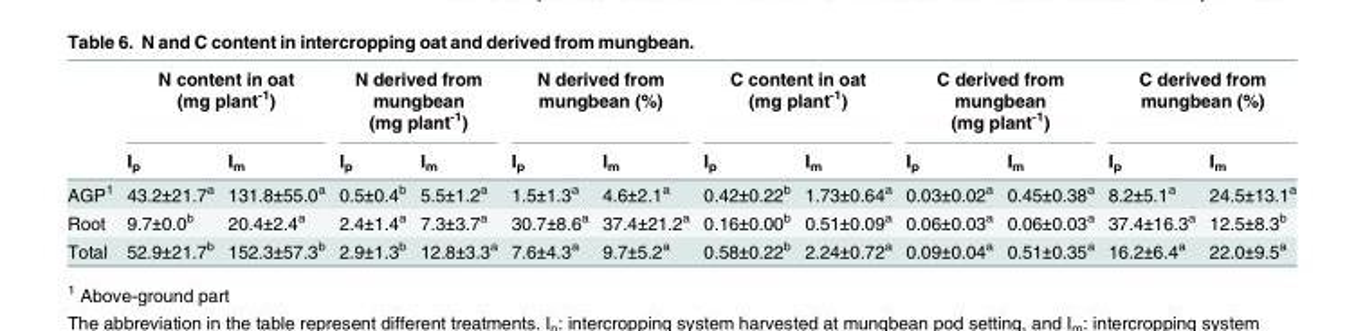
<table><thead><tr><td rowspan="2"></td><td colspan="2">N content in oat (mg plant<sup>-1</sup>)</td><td colspan="2">N derived from mungbean (mg plant<sup>-1</sup>)</td><td colspan="2">N derived from mungbean (%)</td><td colspan="2">C content in oat (mg plant<sup>-1</sup>)</td><td colspan="2">C derived from mungbean (mg plant<sup>-1</sup>)</td><td colspan="2">C derived from mungbean (%)</td></tr><tr><td>I<sub>p</sub></td><td>I<sub>m</sub></td><td>I<sub>p</sub></td><td>I<sub>m</sub></td><td>I<sub>p</sub></td><td>I<sub>m</sub></td><td>I<sub>p</sub></td><td>I<sub>m</sub></td><td>I<sub>p</sub></td><td>I<sub>m</sub></td><td>I<sub>p</sub></td><td>I<sub>m</sub></td></tr></thead><tbody><tr><td>AGP<sup>1</sup></td><td>43.2±21.7<sup>a</sup></td><td>131.8±55.0<sup>a</sup></td><td>0.5±0.4<sup>b</sup></td><td>5.5±1.2<sup>a</sup></td><td>1.5±1.3<sup>a</sup></td><td>4.6±2.1<sup>a</sup></td><td>0.42±0.22<sup>b</sup></td><td>1.73±0.64<sup>a</sup></td><td>0.03±0.02<sup>a</sup></td><td>0.45±0.38<sup>a</sup></td><td>8.2±5.1<sup>a</sup></td><td>24.5±13.1<sup>a</sup></td></tr><tr><td>Root</td><td>9.7±0.0<sup>b</sup></td><td>20.4±2.4<sup>a</sup></td><td>2.4±1.4<sup>a</sup></td><td>7.3±3.7<sup>a</sup></td><td>30.7±8.6<sup>a</sup></td><td>37.4±21.2<sup>a</sup></td><td>0.16±0.00<sup>b</sup></td><td>0.51±0.09<sup>a</sup></td><td>0.06±0.03<sup>a</sup></td><td>0.06±0.03<sup>a</sup></td><td>37.4±16.3<sup>a</sup></td><td>12.5±8.3<sup>b</sup></td></tr><tr><td>Total</td><td>52.9±21.7<sup>b</sup></td><td>152.3±57.3<sup>b</sup></td><td>2.9±1.3<sup>b</sup></td><td>12.8±3.3<sup>a</sup></td><td>7.6±4.3<sup>a</sup></td><td>9.7±5.2<sup>a</sup></td><td>0.58±0.22<sup>b</sup></td><td>2.24±0.72<sup>a</sup></td><td>0.09±0.04<sup>a</sup></td><td>0.51±0.35<sup>a</sup></td><td>16.2±6.4<sup>a</sup></td><td>22.0±9.5<sup>a</sup></td></tr></tbody></table>